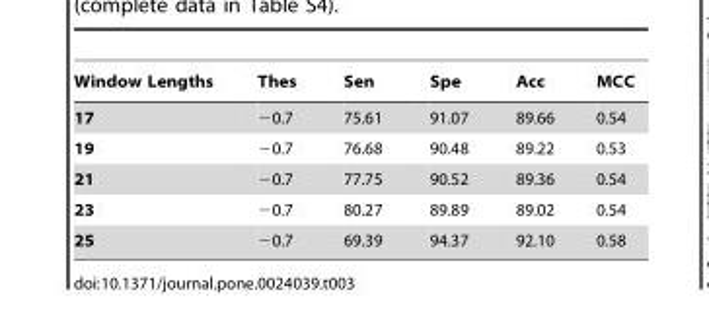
<table><thead><tr><td>Window Lengths</td><td>Thes</td><td>Sen</td><td>Spe</td><td>Acc</td><td>MCC</td></tr></thead><tbody><tr><td>17</td><td>−0.7</td><td>75.61</td><td>91.07</td><td>89.66</td><td>0.54</td></tr><tr><td>19</td><td>−0.7</td><td>76.68</td><td>90.48</td><td>89.22</td><td>0.53</td></tr><tr><td>21</td><td>−0.7</td><td>77.75</td><td>90.52</td><td>89.36</td><td>0.54</td></tr><tr><td>23</td><td>−0.7</td><td>80.27</td><td>89.89</td><td>89.02</td><td>0.54</td></tr><tr><td>25</td><td>−0.7</td><td>69.39</td><td>94.37</td><td>92.10</td><td>0.58</td></tr></tbody></table>